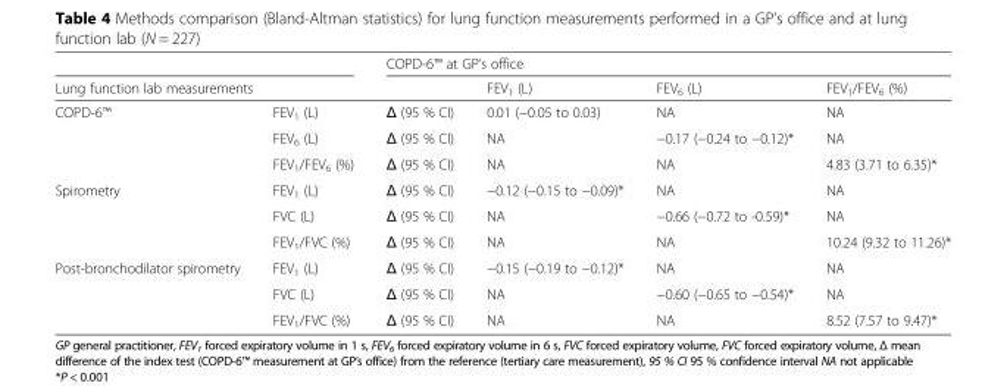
<table><thead><tr><td></td><td></td><td colspan="4">COPD-6™ at GP’s office</td></tr><tr><td colspan="2">Lung function lab measurements</td><td></td><td>FEV<sub>1</sub> (L)</td><td>FEV<sub>6</sub> (L)</td><td>FEV<sub>1</sub>/FEV<sub>6</sub> (%)</td></tr></thead><tbody><tr><td rowspan="3">COPD-6™</td><td>FEV<sub>1</sub> (L)</td><td>Δ (95 % CI)</td><td>0.01 (−0.05 to 0.03)</td><td>NA</td><td>NA</td></tr><tr><td>FEV<sub>6</sub> (L)</td><td>Δ (95 % CI)</td><td>NA</td><td>−0.17 (−0.24 to −0.12)*</td><td>NA</td></tr><tr><td>FEV<sub>1</sub>/FEV<sub>6</sub> (%)</td><td>Δ (95 % CI)</td><td>NA</td><td>NA</td><td>4.83 (3.71 to 6.35)*</td></tr><tr><td rowspan="3">Spirometry</td><td>FEV<sub>1</sub> (L)</td><td>Δ (95 % CI)</td><td>−0.12 (−0.15 to −0.09)*</td><td>NA</td><td>NA</td></tr><tr><td>FVC (L)</td><td>Δ (95 % CI)</td><td>NA</td><td>−0.66 (−0.72 to -0.59)*</td><td>NA</td></tr><tr><td>FEV<sub>1</sub>/FVC (%)</td><td>Δ (95 % CI)</td><td>NA</td><td>NA</td><td>10.24 (9.32 to 11.26)*</td></tr><tr><td rowspan="3">Post-bronchodilator spirometry</td><td>FEV<sub>1</sub> (L)</td><td>Δ (95 % CI)</td><td>−0.15 (−0.19 to −0.12)*</td><td>NA</td><td>NA</td></tr><tr><td>FVC (L)</td><td>Δ (95 % CI)</td><td>NA</td><td>−0.60 (−0.65 to −0.54)*</td><td>NA</td></tr><tr><td>FEV<sub>1</sub>/FVC (%)</td><td>Δ (95 % CI)</td><td>NA</td><td>NA</td><td>8.52 (7.57 to 9.47)*</td></tr></tbody></table>